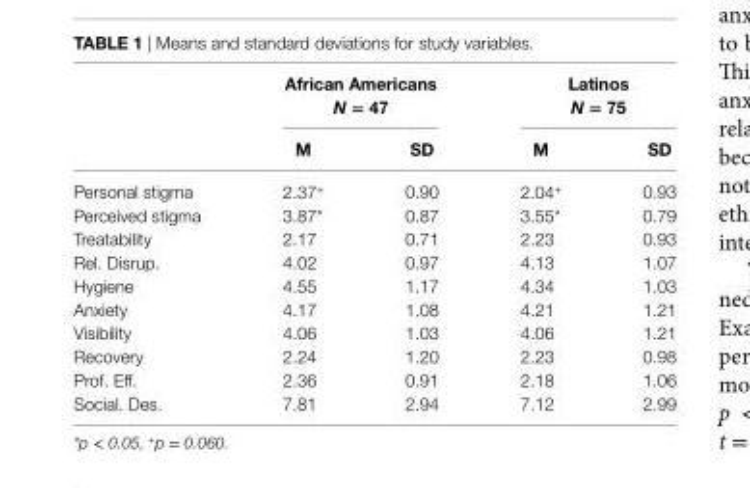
<table><thead><tr><td rowspan="2"></td><td colspan="2">african americans N = 47</td><td colspan="2">latinos N = 75</td></tr><tr><td>M</td><td>sD</td><td>M</td><td>sD</td></tr></thead><tbody><tr><td>Personal stigma</td><td>2.37<sup>+</sup></td><td>0.90</td><td>2.04<sup>+</sup></td><td>0.93</td></tr><tr><td>Perceived stigma</td><td>3.87*</td><td>0.87</td><td>3.55*</td><td>0.79</td></tr><tr><td>Treatability</td><td>2.17</td><td>0.71</td><td>2.23</td><td>0.93</td></tr><tr><td>Rel. Disrup.</td><td>4.02</td><td>0.97</td><td>4.13</td><td>1.07</td></tr><tr><td>Hygiene</td><td>4.55</td><td>1.17</td><td>4.34</td><td>1.03</td></tr><tr><td>Anxiety</td><td>4.17</td><td>1.08</td><td>4.21</td><td>1.21</td></tr><tr><td>Visibility</td><td>4.06</td><td>1.03</td><td>4.06</td><td>1.21</td></tr><tr><td>Recovery</td><td>2.24</td><td>1.20</td><td>2.23</td><td>0.98</td></tr><tr><td>Prof. Eff.</td><td>2.36</td><td>0.91</td><td>2.18</td><td>1.06</td></tr><tr><td>Social. Des.</td><td>7.81</td><td>2.94</td><td>7.12</td><td>2.99</td></tr></tbody></table>